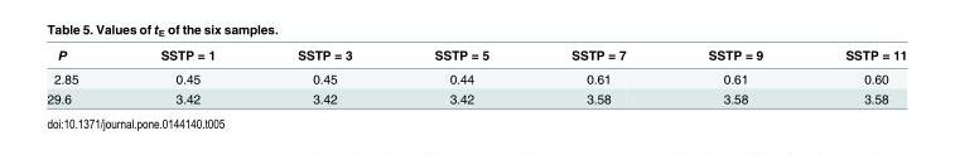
<table><thead><tr><td>P</td><td>SSTP = 1</td><td>SSTP = 3</td><td>SSTP = 5</td><td>SSTP = 7</td><td>SSTP = 9</td><td>SSTP = 11</td></tr></thead><tbody><tr><td>2.85</td><td>0.45</td><td>0.45</td><td>0.44</td><td>0.61</td><td>0.61</td><td>0.60</td></tr><tr><td>29.6</td><td>3.42</td><td>3.42</td><td>3.42</td><td>3.58</td><td>3.58</td><td>3.58</td></tr></tbody></table>